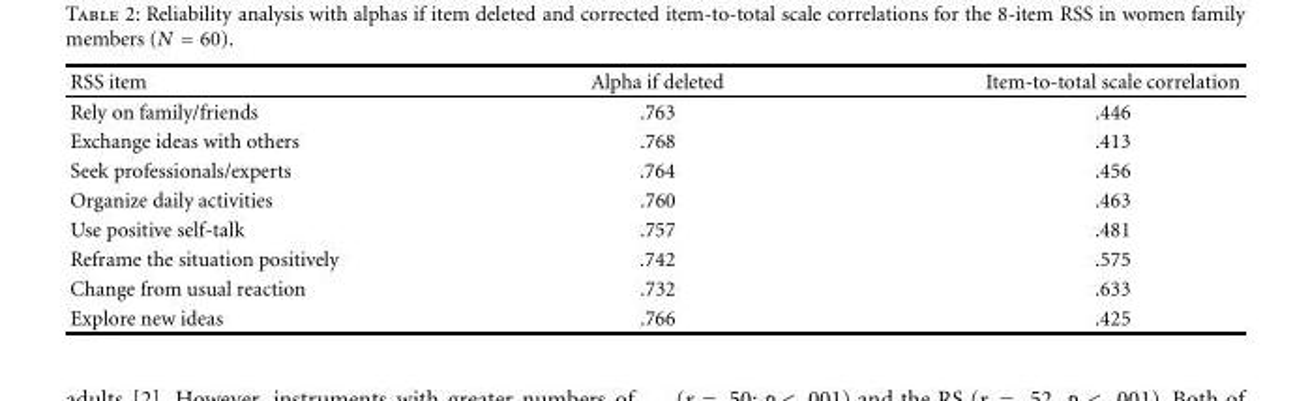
<table><thead><tr><td>RSS item</td><td>Alpha if deleted</td><td>Item-to-total scale correlation</td></tr></thead><tbody><tr><td>Rely on family/friends</td><td>.763</td><td>.446</td></tr><tr><td>Exchange ideas with others</td><td>.768</td><td>.413</td></tr><tr><td>Seek professionals/experts</td><td>.764</td><td>.456</td></tr><tr><td>Organize daily activities</td><td>.760</td><td>.463</td></tr><tr><td>Use positive self-talk</td><td>.757</td><td>.481</td></tr><tr><td>Reframe the situation positively</td><td>.742</td><td>.575</td></tr><tr><td>Change from usual reaction</td><td>.732</td><td>.633</td></tr><tr><td>Explore new ideas</td><td>.766</td><td>.425</td></tr></tbody></table>